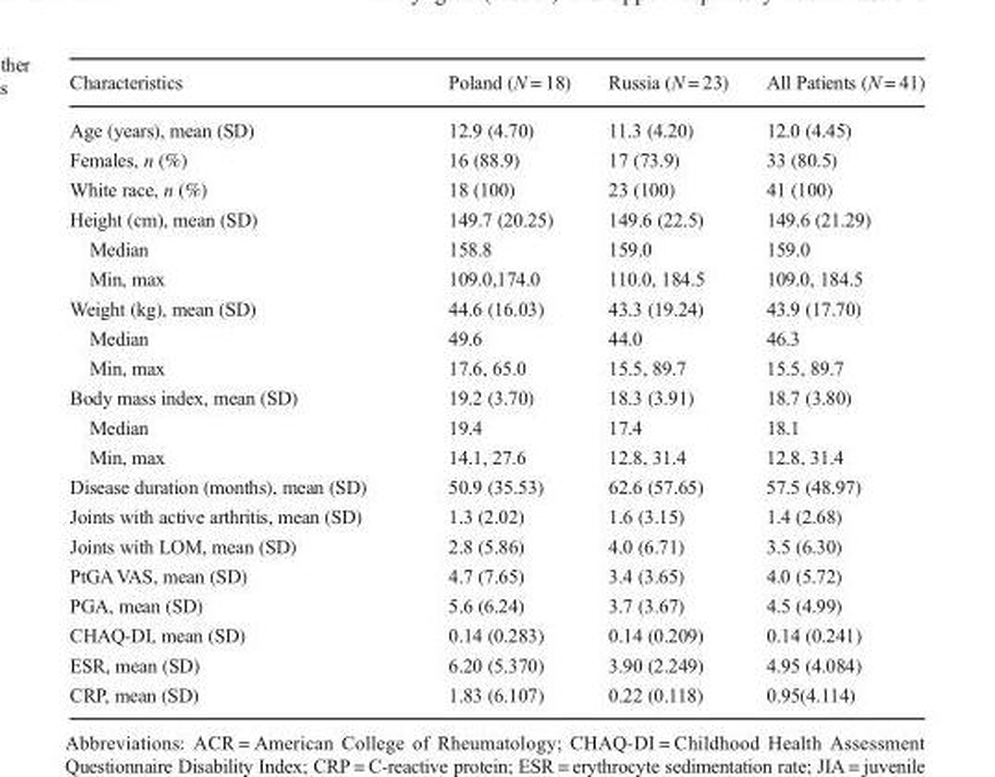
<table><thead><tr><td>Characteristics</td><td>Poland (N = 18)</td><td>Russia (N = 23)</td><td>All Patients (N = 41)</td></tr></thead><tbody><tr><td>Age (years), mean (SD)</td><td>12.9 (4.70)</td><td>11.3 (4.20)</td><td>12.0 (4.45)</td></tr><tr><td>Females, n (%)</td><td>16 (88.9)</td><td>17 (73.9)</td><td>33 (80.5)</td></tr><tr><td>White race, n (%)</td><td>18 (100)</td><td>23 (100)</td><td>41 (100)</td></tr><tr><td>Height (cm), mean (SD)</td><td>149.7 (20.25)</td><td>149.6 (22.5)</td><td>149.6 (21.29)</td></tr><tr><td>Median</td><td>158.8</td><td>159.0</td><td>159.0</td></tr><tr><td>Min, max</td><td>109.0,174.0</td><td>110.0, 184.5</td><td>109.0, 184.5</td></tr><tr><td>Weight (kg), mean (SD)</td><td>44.6 (16.03)</td><td>43.3 (19.24)</td><td>43.9 (17.70)</td></tr><tr><td>Median</td><td>49.6</td><td>44.0</td><td>46.3</td></tr><tr><td>Min, max</td><td>17.6, 65.0</td><td>15.5, 89.7</td><td>15.5, 89.7</td></tr><tr><td>Body mass index, mean (SD)</td><td>19.2 (3.70)</td><td>18.3 (3.91)</td><td>18.7 (3.80)</td></tr><tr><td>Median</td><td>19.4</td><td>17.4</td><td>18.1</td></tr><tr><td>Min, max</td><td>14.1, 27.6</td><td>12.8, 31.4</td><td>12.8, 31.4</td></tr><tr><td>Disease duration (months), mean (SD)</td><td>50.9 (35.53)</td><td>62.6 (57.65)</td><td>57.5 (48.97)</td></tr><tr><td>Joints with active arthritis, mean (SD)</td><td>1.3 (2.02)</td><td>1.6 (3.15)</td><td>1.4 (2.68)</td></tr><tr><td>Joints with LOM, mean (SD)</td><td>2.8 (5.86)</td><td>4.0 (6.71)</td><td>3.5 (6.30)</td></tr><tr><td>PtGAVAS, mean (SD)</td><td>4.7 (7.65)</td><td>3.4 (3.65)</td><td>4.0 (5.72)</td></tr><tr><td>PGA, mean (SD)</td><td>5.6 (6.24)</td><td>3.7 (3.67)</td><td>4.5 (4.99)</td></tr><tr><td>CHAQ-DI, mean (SD)</td><td>0.14 (0.283)</td><td>0.14 (0.209)</td><td>0.14 (0.241)</td></tr><tr><td>ESR, mean (SD)</td><td>6.20 (5.370)</td><td>3.90 (2.249)</td><td>4.95 (4.084)</td></tr><tr><td>CRP, mean (SD)</td><td>1.83 (6.107)</td><td>0.22 (0.118)</td><td>0.95(4.114)</td></tr></tbody></table>